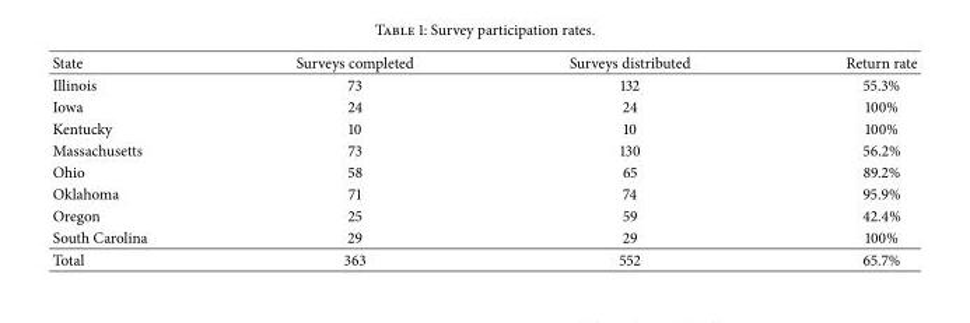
<table><thead><tr><td>State</td><td>Surveys completed</td><td>Surveys distributed</td><td>Return rate</td></tr></thead><tbody><tr><td>Illinois</td><td>73</td><td>132</td><td>55.3%</td></tr><tr><td>Iowa</td><td>24</td><td>24</td><td>100%</td></tr><tr><td>Kentucky</td><td>10</td><td>10</td><td>100%</td></tr><tr><td>Massachusetts</td><td>73</td><td>130</td><td>56.2%</td></tr><tr><td>Ohio</td><td>58</td><td>65</td><td>89.2%</td></tr><tr><td>Oklahoma</td><td>71</td><td>74</td><td>95.9%</td></tr><tr><td>Oregon</td><td>25</td><td>59</td><td>42.4%</td></tr><tr><td>South Carolina</td><td>29</td><td>29</td><td>100%</td></tr><tr><td>Total</td><td>363</td><td>552</td><td>65.7%</td></tr></tbody></table>